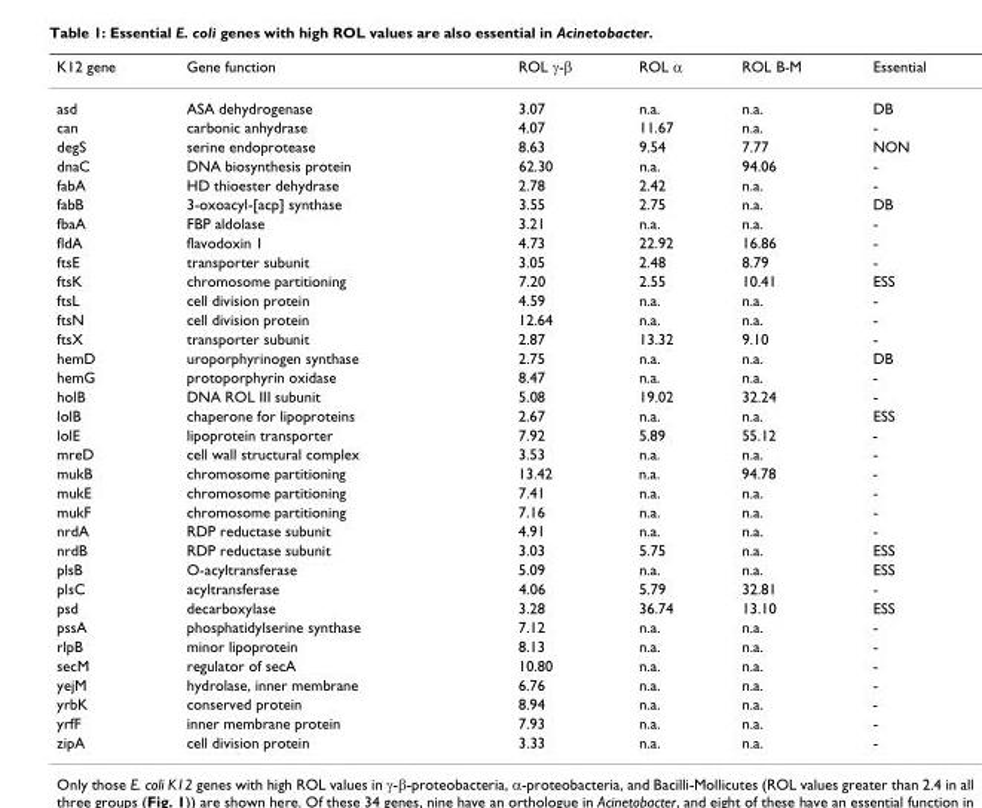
<table><thead><tr><td>K12 gene</td><td>Gene function</td><td>ROL γ-β</td><td>ROL α</td><td>ROL B-M</td><td>Essential</td></tr></thead><tbody><tr><td>asd</td><td>ASA dehydrogenase</td><td>3.07</td><td>n.a.</td><td>n.a.</td><td>DB</td></tr><tr><td>can</td><td>carbonic anhydrase</td><td>4.07</td><td>11.67</td><td>n.a.</td><td>-</td></tr><tr><td>degS</td><td>serine endoprotease</td><td>8.63</td><td>9.54</td><td>7.77</td><td>NON</td></tr><tr><td>dnaC</td><td>DNA biosynthesis protein</td><td>62.30</td><td>n.a.</td><td>94.06</td><td>-</td></tr><tr><td>fabA</td><td>HD thioester dehydrase</td><td>2.78</td><td>2.42</td><td>n.a.</td><td>-</td></tr><tr><td>fabB</td><td>3-oxoacyl-[acp] synthase</td><td>3.55</td><td>2.75</td><td>n.a.</td><td>DB</td></tr><tr><td>fbaA</td><td>FBP aldolase</td><td>3.21</td><td>n.a.</td><td>n.a.</td><td>-</td></tr><tr><td>fldA</td><td>flavodoxin 1</td><td>4.73</td><td>22.92</td><td>16.86</td><td>-</td></tr><tr><td>ftsE</td><td>transporter subunit</td><td>3.05</td><td>2.48</td><td>8.79</td><td>-</td></tr><tr><td>ftsK</td><td>chromosome partitioning</td><td>7.20</td><td>2.55</td><td>10.41</td><td>ESS</td></tr><tr><td>ftsL</td><td>cell division protein</td><td>4.59</td><td>n.a.</td><td>n.a.</td><td>-</td></tr><tr><td>ftsN</td><td>cell division protein</td><td>12.64</td><td>n.a.</td><td>n.a.</td><td>-</td></tr><tr><td>ftsX</td><td>transporter subunit</td><td>2.87</td><td>13.32</td><td>9.10</td><td>-</td></tr><tr><td>hemD</td><td>uroporphyrinogen synthase</td><td>2.75</td><td>n.a.</td><td>n.a.</td><td>DB</td></tr><tr><td>hemG</td><td>protoporphyrin oxidase</td><td>8.47</td><td>n.a.</td><td>n.a.</td><td>-</td></tr><tr><td>holB</td><td>DNA ROL III subunit</td><td>5.08</td><td>19.02</td><td>32.24</td><td>-</td></tr><tr><td>lolB</td><td>chaperone for lipoproteins</td><td>2.67</td><td>n.a.</td><td>n.a.</td><td>ESS</td></tr><tr><td>lolE</td><td>lipoprotein transporter</td><td>7.92</td><td>5.89</td><td>55.12</td><td>-</td></tr><tr><td>mreD</td><td>cell wall structural complex</td><td>3.53</td><td>n.a.</td><td>n.a.</td><td>-</td></tr><tr><td>mukB</td><td>chromosome partitioning</td><td>13.42</td><td>n.a.</td><td>94.78</td><td>-</td></tr><tr><td>mukE</td><td>chromosome partitioning</td><td>7.41</td><td>n.a.</td><td>n.a.</td><td>-</td></tr><tr><td>mukF</td><td>chromosome partitioning</td><td>7.16</td><td>n.a.</td><td>n.a.</td><td>-</td></tr><tr><td>nrdA</td><td>RDP reductase subunit</td><td>4.91</td><td>n.a.</td><td>n.a.</td><td>-</td></tr><tr><td>nrdB</td><td>RDP reductase subunit</td><td>3.03</td><td>5.75</td><td>n.a.</td><td>ESS</td></tr><tr><td>plsB</td><td>O-acyltransferase</td><td>5.09</td><td>n.a.</td><td>n.a.</td><td>ESS</td></tr><tr><td>plsC</td><td>acyltransferase</td><td>4.06</td><td>5.79</td><td>32.81</td><td>-</td></tr><tr><td>psd</td><td>decarboxylase</td><td>3.28</td><td>36.74</td><td>13.10</td><td>ESS</td></tr><tr><td>pssA</td><td>phosphatidylserine synthase</td><td>7.12</td><td>n.a.</td><td>n.a.</td><td>-</td></tr><tr><td>rlpB</td><td>minor lipoprotein</td><td>8.13</td><td>n.a.</td><td>n.a.</td><td>-</td></tr><tr><td>secM</td><td>regulator of secA</td><td>10.80</td><td>n.a.</td><td>n.a.</td><td>-</td></tr><tr><td>yejM</td><td>hydrolase, inner membrane</td><td>6.76</td><td>n.a.</td><td>n.a.</td><td>-</td></tr><tr><td>yrbK</td><td>conserved protein</td><td>8.94</td><td>n.a.</td><td>n.a.</td><td>-</td></tr><tr><td>yrfF</td><td>inner membrane protein</td><td>7.93</td><td>n.a.</td><td>n.a.</td><td>-</td></tr><tr><td>zipA</td><td>cell division protein</td><td>3.33</td><td>n.a.</td><td>n.a.</td><td>-</td></tr></tbody></table>